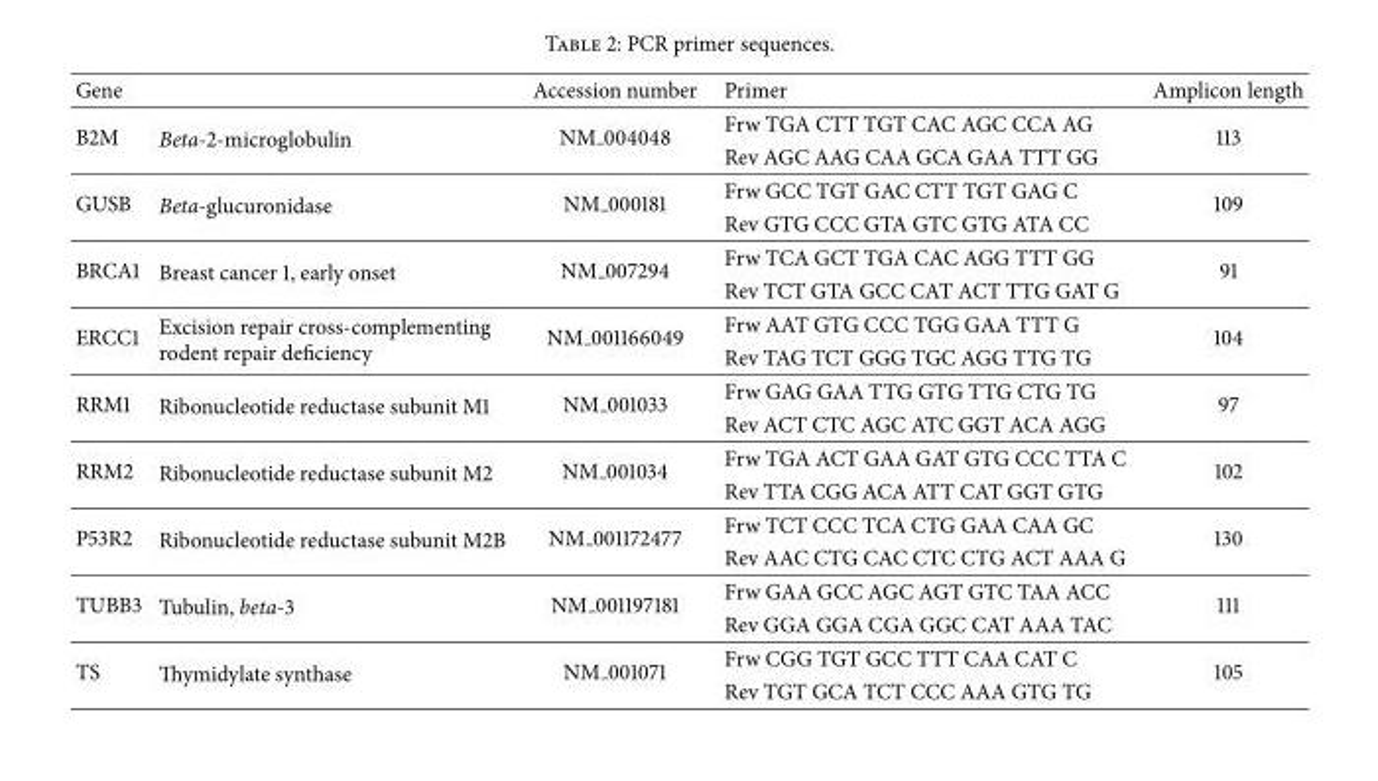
<table><thead><tr><td>Gene</td><td></td><td>Accession number</td><td>Primer</td><td>Amplicon length</td></tr></thead><tbody><tr><td rowspan="2">B2M</td><td rowspan="2">Beta-2-microglobulin</td><td rowspan="2">NM 004048</td><td>Frw TGA CTT TGT CAC AGC CCA AG</td><td rowspan="2">113</td></tr><tr><td>Rev AGC AAG CAA GCA GAA TTT GG</td></tr><tr><td rowspan="2">GUSB</td><td rowspan="2">Beta-glucuronidase</td><td rowspan="2">NM 000181</td><td>Frw GCC TGT GAC CTT TGT GAG C</td><td rowspan="2">109</td></tr><tr><td>Rev GTG CCC GTA GTC GTG ATA CC</td></tr><tr><td rowspan="2">BRCA1</td><td rowspan="2">Breast cancer 1, early onset</td><td rowspan="2">NM 007294</td><td>Frw TCA GCT TGA CAC AGG TTT GG</td><td rowspan="2">91</td></tr><tr><td>Rev TCT GTA GCC CAT ACT TTG GAT G</td></tr><tr><td rowspan="2">ERCC1</td><td rowspan="2">Excision repair cross-complementing rodent repair deficiency</td><td rowspan="2">NM 001166049</td><td>Frw AAT GTG CCC TGG GAA TTT G</td><td rowspan="2">104</td></tr><tr><td>Rev TAG TCT GGG TGC AGG TTG TG</td></tr><tr><td rowspan="2">RRM1</td><td rowspan="2">Ribonucleotide reductase subunit M1</td><td rowspan="2">NM 001033</td><td>Frw GAG GAA TTG GTG TTG CTG TG</td><td rowspan="2">97</td></tr><tr><td>Rev ACT CTC AGC ATC GGT ACA AGG</td></tr><tr><td rowspan="2">RRM2</td><td rowspan="2">Ribonucleotide reductase subunit M2</td><td rowspan="2">NM 001034</td><td>Frw TGA ACT GAA GAT GTG CCC TTA C</td><td rowspan="2">102</td></tr><tr><td>Rev TTA CGG ACA ATT CAT GGT GTG</td></tr><tr><td rowspan="2">P53R2</td><td rowspan="2">Ribonucleotide reductase subunit M2B</td><td rowspan="2">NM 001172477</td><td>Frw TCT CCC TCA CTG GAA CAA GC</td><td rowspan="2">130</td></tr><tr><td>Rev AAC CTG CAC CTC CTG ACT AAA G</td></tr><tr><td rowspan="2">TUBB3</td><td rowspan="2">Tubulin, beta-3</td><td rowspan="2">NM 001197181</td><td>Frw GAA GCC AGC AGT GTC TAA ACC</td><td rowspan="2">111</td></tr><tr><td>Rev GGA GGA CGA GGC CAT AAA TAC</td></tr><tr><td rowspan="2">TS</td><td rowspan="2">Thymidylate synthase</td><td rowspan="2">NM 001071</td><td>Frw CGG TGT GCC TTT CAA CAT C</td><td rowspan="2">105</td></tr><tr><td>Rev TGT GCA TCT CCC AAA GTG TG</td></tr></tbody></table>